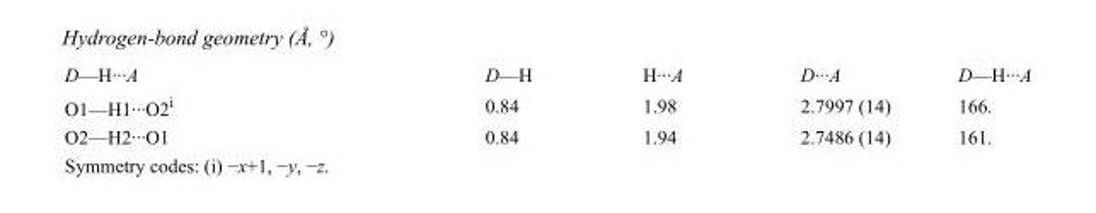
<table><tbody><tr><td>D—H···A</td><td>D—H</td><td>H···A</td><td>D···A</td><td>D—H···A</td></tr><tr><td>O1—H1···O2<sup>i</sup></td><td>0.84</td><td>1.98</td><td>2.7997 (14)</td><td>166.</td></tr><tr><td>O2—H2···O1</td><td>0.84</td><td>1.94</td><td>2.7486 (14)</td><td>161.</td></tr></tbody></table>